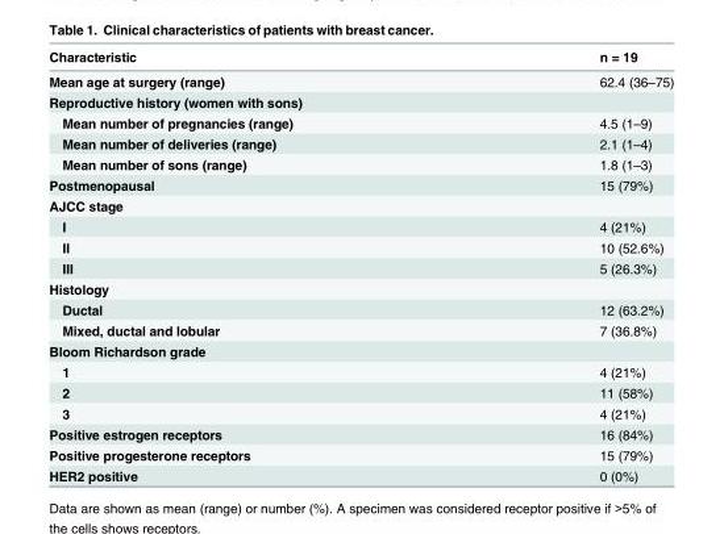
<table><thead><tr><td>Characteristic</td><td>n = 19</td></tr></thead><tbody><tr><td>Mean age at surgery (range)</td><td>62.4 (36–75)</td></tr><tr><td colspan="2">Reproductive history (women with sons)</td></tr><tr><td>Mean number of pregnancies (range)</td><td>4.5 (1–9)</td></tr><tr><td>Mean number of deliveries (range)</td><td>2.1 (1–4)</td></tr><tr><td>Mean number of sons (range)</td><td>1.8 (1–3)</td></tr><tr><td>Postmenopausal</td><td>15 (79%)</td></tr><tr><td colspan="2">AJCC stage</td></tr><tr><td>I</td><td>4 (21%)</td></tr><tr><td>II</td><td>10 (52.6%)</td></tr><tr><td>III</td><td>5 (26.3%)</td></tr><tr><td colspan="2">Histology</td></tr><tr><td>Ductal</td><td>12 (63.2%)</td></tr><tr><td>Mixed, ductal and lobular</td><td>7 (36.8%)</td></tr><tr><td colspan="2">Bloom Richardson grade</td></tr><tr><td>1</td><td>4 (21%)</td></tr><tr><td>2</td><td>11 (58%)</td></tr><tr><td>3</td><td>4 (21%)</td></tr><tr><td>Positive estrogen receptors</td><td>16 (84%)</td></tr><tr><td>Positive progesterone receptors</td><td>15 (79%)</td></tr><tr><td>HER2 positive</td><td>0 (0%)</td></tr></tbody></table>